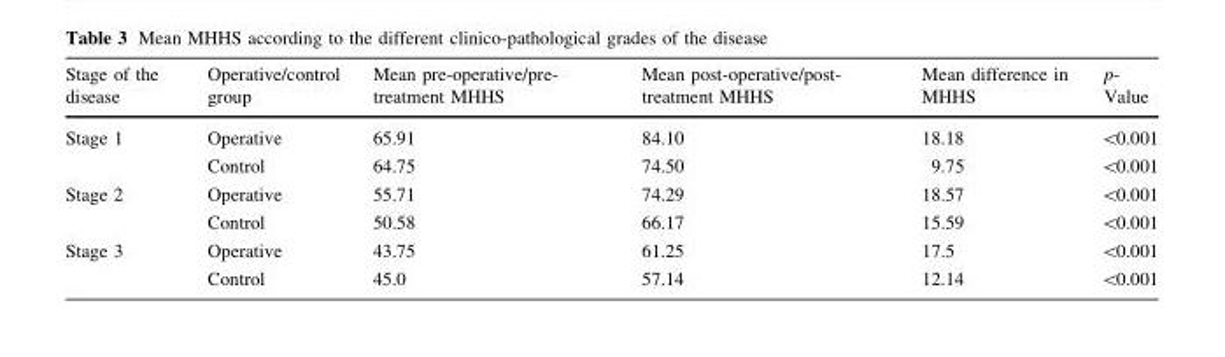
<table><thead><tr><td>Stage of the disease</td><td>Operative/control group</td><td>Mean pre-operative/pre- treatment MHHS</td><td>Mean post-operative/post- treatment MHHS</td><td>Mean difference in MHHS</td><td>p- Value</td></tr></thead><tbody><tr><td rowspan="2">Stage 1</td><td>Operative</td><td>65.91</td><td>84.10</td><td>18.18</td><td>&lt;0.001</td></tr><tr><td>Control</td><td>64.75</td><td>74.50</td><td>9.75</td><td>&lt;0.001</td></tr><tr><td rowspan="2">Stage 2</td><td>Operative</td><td>55.71</td><td>74.29</td><td>18.57</td><td>&lt;0.001</td></tr><tr><td>Control</td><td>50.58</td><td>66.17</td><td>15.59</td><td>&lt;0.001</td></tr><tr><td rowspan="2">Stage 3</td><td>Operative</td><td>43.75</td><td>61.25</td><td>17.5</td><td>&lt;0.001</td></tr><tr><td>Control</td><td>45.0</td><td>57.14</td><td>12.14</td><td>&lt;0.001</td></tr></tbody></table>